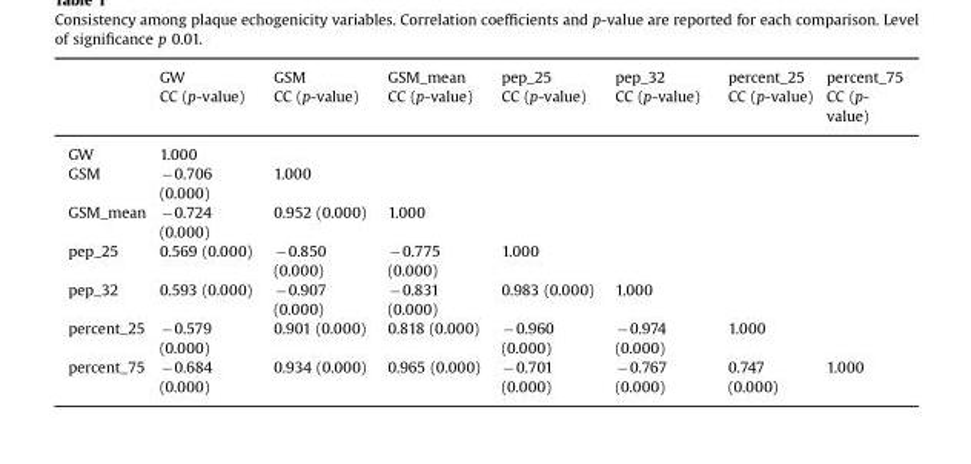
<table><thead><tr><td rowspan="2"></td><td rowspan="2">GW CC (p-value)</td><td rowspan="2">GSM CC (p-value)</td><td rowspan="2">GSM_mean CC (p-value)</td><td rowspan="2">pep_25 CC (p-value)</td><td rowspan="2">pep_32 CC (p-value)</td><td rowspan="2">percent_25 CC (p-value)</td><td rowspan="2">percent_75 CC (p- value)</td></tr><tr></tr></thead><tbody><tr><td>GW</td><td>1.000</td><td></td><td></td><td></td><td></td><td></td><td></td></tr><tr><td>GSM</td><td>−0.706 (0.000)</td><td>1.000</td><td></td><td></td><td></td><td></td><td></td></tr><tr><td>GSM_mean</td><td>−0.724 (0.000)</td><td>0.952 (0.000)</td><td>1.000</td><td></td><td></td><td></td><td></td></tr><tr><td>pep_25</td><td>0.569 (0.000)</td><td>−0.850 (0.000)</td><td>−0.775 (0.000)</td><td>1.000</td><td></td><td></td><td></td></tr><tr><td>pep_32</td><td>0.593 (0.000)</td><td>−0.907 (0.000)</td><td>−0.831 (0.000)</td><td>0.983 (0.000)</td><td>1.000</td><td></td><td></td></tr><tr><td>percent_25</td><td>−0.579 (0.000)</td><td>0.901 (0.000)</td><td>0.818 (0.000)</td><td>−0.960 (0.000)</td><td>−0.974 (0.000)</td><td>1.000</td><td></td></tr><tr><td>percent_75</td><td>−0.684 (0.000)</td><td>0.934 (0.000)</td><td>0.965 (0.000)</td><td>−0.701 (0.000)</td><td>−0.767 (0.000)</td><td>0.747 (0.000)</td><td>1.000</td></tr></tbody></table>